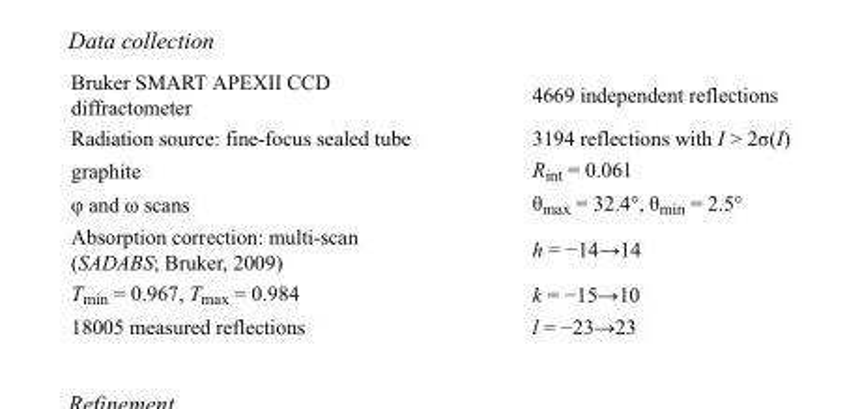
<table><tbody><tr><td>Bruker SMART APEXII CCD diffractometer</td><td>4669 independent reflections</td></tr><tr><td>Radiation source: fine-focus sealed tube</td><td>3194 reflections with I &gt; 2σ(I)</td></tr><tr><td>graphite</td><td>R<sub>int</sub> = 0.061</td></tr><tr><td>φ and ω scans</td><td>θ<sub>max</sub> = 32.4°, θ<sub>min</sub> = 2.5°</td></tr><tr><td>Absorption correction: multi-scan (SADABS; Bruker, 2009)</td><td>h = −14→14</td></tr><tr><td>T<sub>min</sub> = 0.967, T<sub>max</sub> = 0.984</td><td>k = −15→10</td></tr><tr><td>18005 measured reflections</td><td>l = −23→23</td></tr></tbody></table>